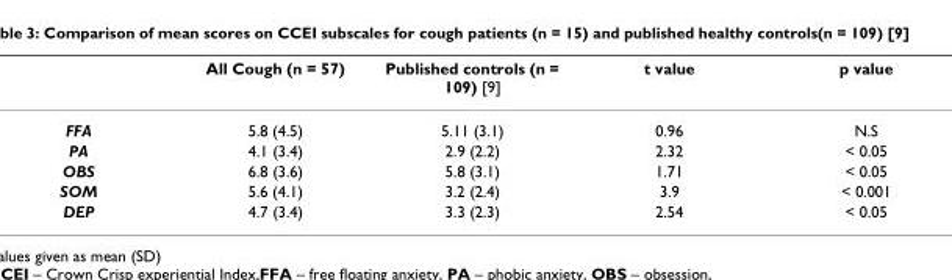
<table><thead><tr><td></td><td>All Cough (n = 57)</td><td>Published controls (n = 109) [9]</td><td>t value</td><td>p value</td></tr></thead><tbody><tr><td>FFA</td><td>5.8 (4.5)</td><td>5.11 (3.1)</td><td>0.96</td><td>N.S</td></tr><tr><td>PA</td><td>4.1 (3.4)</td><td>2.9 (2.2)</td><td>2.32</td><td>&lt; 0.05</td></tr><tr><td>OBS</td><td>6.8 (3.6)</td><td>5.8 (3.1)</td><td>1.71</td><td>&lt; 0.05</td></tr><tr><td>SOM</td><td>5.6 (4.1)</td><td>3.2 (2.4)</td><td>3.9</td><td>&lt; 0.001</td></tr><tr><td>DEP</td><td>4.7 (3.4)</td><td>3.3 (2.3)</td><td>2.54</td><td>&lt; 0.05</td></tr></tbody></table>